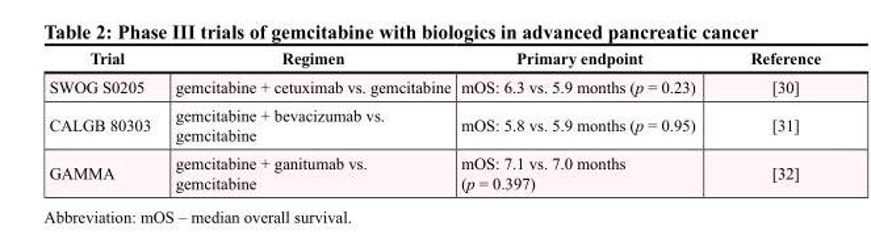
<table><thead><tr><td>Trial</td><td>Regimen</td><td>Primary endpoint</td><td>Reference</td></tr></thead><tbody><tr><td>SWOG S0205</td><td>gemcitabine + cetuximab vs. gemcitabine</td><td>mOS: 6.3 vs. 5.9 months (p = 0.23)</td><td>[30]</td></tr><tr><td>CALGB 80303</td><td>gemcitabine + bevacizumab vs. gemcitabine</td><td>mOS: 5.8 vs. 5.9 months (p = 0.95)</td><td>[31]</td></tr><tr><td>GAMMA</td><td>gemcitabine + ganitumab vs. gemcitabine</td><td>mOS: 7.1 vs. 7.0 months (p = 0.397)</td><td>[32]</td></tr></tbody></table>